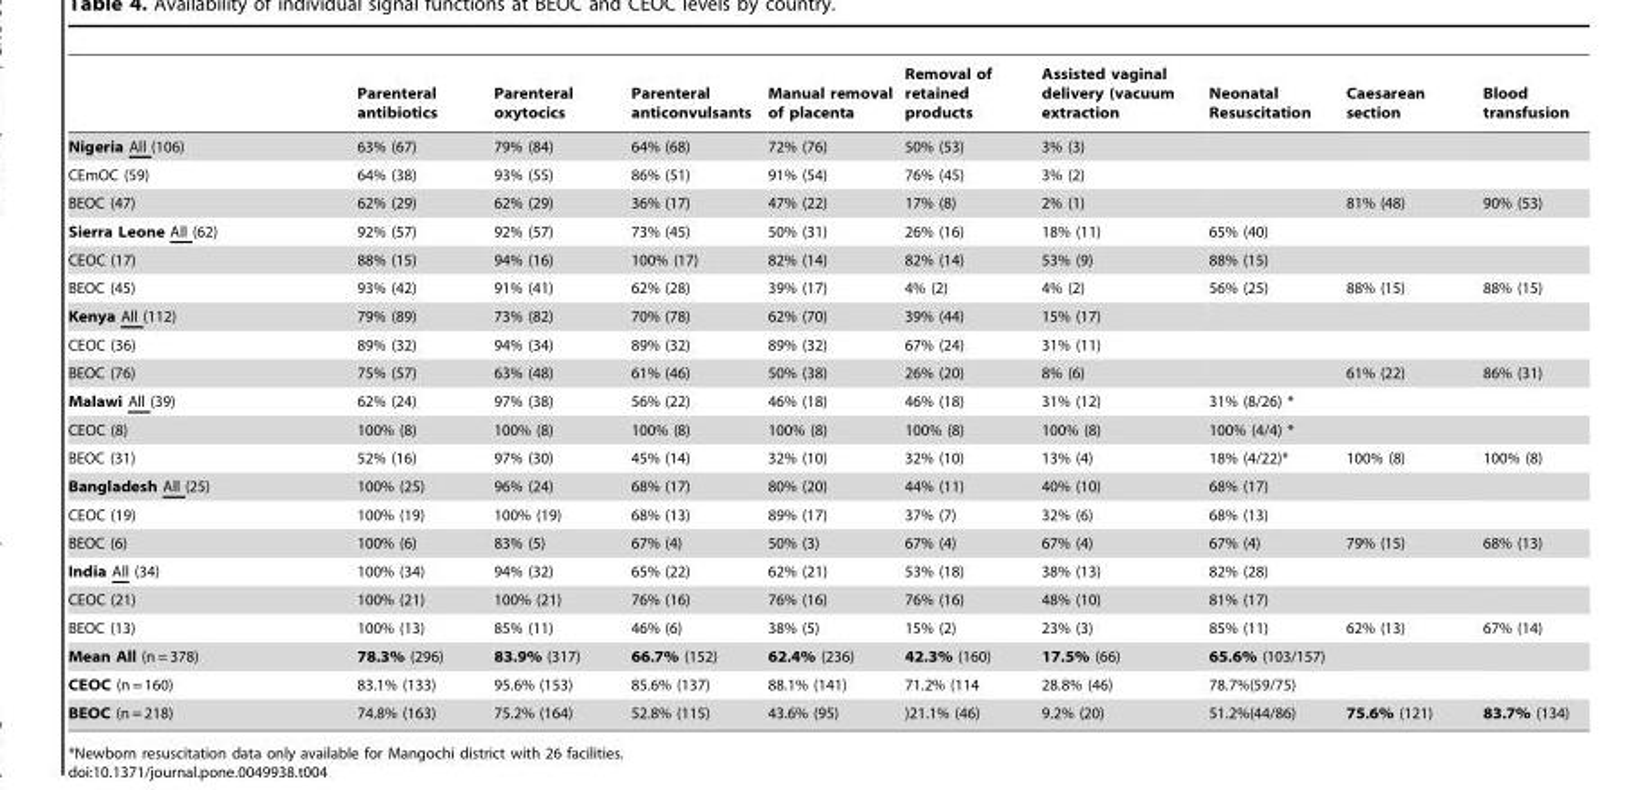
<table><thead><tr><td></td><td>Parenteral antibiotics</td><td>Parenteral oxytocics</td><td>Parenteral anticonvulsants</td><td>Manual removal of placenta</td><td>Removal of retained products</td><td>Assisted vaginal delivery (vacuum extraction</td><td>Neonatal Resuscitation</td><td>Caesarean section</td><td>Blood transfusion</td></tr></thead><tbody><tr><td>Nigeria All (106)</td><td>63% (67)</td><td>79% (84)</td><td>64% (68)</td><td>72% (76)</td><td>50% (53)</td><td>3% (3)</td><td></td><td></td><td></td></tr><tr><td>CEmOC (59)</td><td>64% (38)</td><td>93% (55)</td><td>86% (51)</td><td>91% (54)</td><td>76% (45)</td><td>3% (2)</td><td></td><td></td><td></td></tr><tr><td>BEOC (47)</td><td>62% (29)</td><td>62% (29)</td><td>36% (17)</td><td>47% (22)</td><td>17% (8)</td><td>2% (1)</td><td></td><td>81% (48)</td><td>90% (53)</td></tr><tr><td>Sierra Leone All (62)</td><td>92% (57)</td><td>92% (57)</td><td>73% (45)</td><td>50% (31)</td><td>26% (16)</td><td>18% (11)</td><td>65% (40)</td><td></td><td></td></tr><tr><td>CEOC (17)</td><td>88% (15)</td><td>94% (16)</td><td>100% (17)</td><td>82% (14)</td><td>82% (14)</td><td>53% (9)</td><td>88% (15)</td><td></td><td></td></tr><tr><td>BEOC (45)</td><td>93% (42)</td><td>91% (41)</td><td>62% (28)</td><td>39% (17)</td><td>4% (2)</td><td>4% (2)</td><td>56% (25)</td><td>88% (15)</td><td>88% (15)</td></tr><tr><td>Kenya All (112)</td><td>79% (89)</td><td>73% (82)</td><td>70% (78)</td><td>62% (70)</td><td>39% (44)</td><td>15% (17)</td><td></td><td></td><td></td></tr><tr><td>CEOC (36)</td><td>89% (32)</td><td>94% (34)</td><td>89% (32)</td><td>89% (32)</td><td>67% (24)</td><td>31% (11)</td><td></td><td></td><td></td></tr><tr><td>BEOC (76)</td><td>75% (57)</td><td>63% (48)</td><td>61% (46)</td><td>50% (38)</td><td>26% (20)</td><td>8% (6)</td><td></td><td>61% (22)</td><td>86% (31)</td></tr><tr><td>Malawi All (39)</td><td>62% (24)</td><td>97% (38)</td><td>56% (22)</td><td>46% (18)</td><td>46% (18)</td><td>31% (12)</td><td>31% (8/26) *</td><td></td><td></td></tr><tr><td>CEOC (8)</td><td>100% (8)</td><td>100% (8)</td><td>100% (8)</td><td>100% (8)</td><td>100% (8)</td><td>100% (8)</td><td>100% (4/4) *</td><td></td><td></td></tr><tr><td>BEOC (31)</td><td>52% (16)</td><td>97% (30)</td><td>45% (14)</td><td>32% (10)</td><td>32% (10)</td><td>13% (4)</td><td>18% (4/22)*</td><td>100% (8)</td><td>100% (8)</td></tr><tr><td>Bangladesh All (25)</td><td>100% (25)</td><td>96% (24)</td><td>68% (17)</td><td>80% (20)</td><td>44% (11)</td><td>40% (10)</td><td>68% (17)</td><td></td><td></td></tr><tr><td>CEOC (19)</td><td>100% (19)</td><td>100% (19)</td><td>68% (13)</td><td>89% (17)</td><td>37% (7)</td><td>32% (6)</td><td>68% (13)</td><td></td><td></td></tr><tr><td>BEOC (6)</td><td>100% (6)</td><td>83% (5)</td><td>67% (4)</td><td>50% (3)</td><td>67% (4)</td><td>67% (4)</td><td>67% (4)</td><td>79% (15)</td><td>68% (13)</td></tr><tr><td>India All (34)</td><td>100% (34)</td><td>94% (32)</td><td>65% (22)</td><td>62% (21)</td><td>53% (18)</td><td>38% (13)</td><td>82% (28)</td><td></td><td></td></tr><tr><td>CEOC (21)</td><td>100% (21)</td><td>100% (21)</td><td>76% (16)</td><td>76% (16)</td><td>76% (16)</td><td>48% (10)</td><td>81% (17)</td><td></td><td></td></tr><tr><td>BEOC (13)</td><td>100% (13)</td><td>85% (11)</td><td>46% (6)</td><td>38% (5)</td><td>15% (2)</td><td>23% (3)</td><td>85% (11)</td><td>62% (13)</td><td>67% (14)</td></tr><tr><td>Mean All (n = 378)</td><td>78.3% (296)</td><td>83.9% (317)</td><td>66.7% (152)</td><td>62.4% (236)</td><td>42.3% (160)</td><td>17.5% (66)</td><td>65.6% (103/157)</td><td></td><td></td></tr><tr><td>CEOC (n = 160)</td><td>83.1% (133)</td><td>95.6% (153)</td><td>85.6% (137)</td><td>88.1% (141)</td><td>71.2% (114</td><td>28.8% (46)</td><td>78.7%(59/75)</td><td></td><td></td></tr><tr><td>BEOC (n = 218)</td><td>74.8% (163)</td><td>75.2% (164)</td><td>52.8% (115)</td><td>43.6% (95)</td><td>)21.1% (46)</td><td>9.2% (20)</td><td>51.2%(44/86)</td><td>75.6% (121)</td><td>83.7% (134)</td></tr></tbody></table>